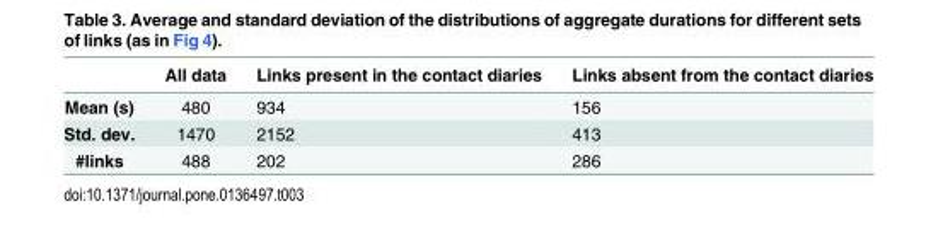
<table><thead><tr><td></td><td>All data</td><td>Links present in the contact diaries</td><td>Links absent from the contact diaries</td></tr></thead><tbody><tr><td>Mean (s)</td><td>480</td><td>934</td><td>156</td></tr><tr><td>Std. dev.</td><td>1470</td><td>2152</td><td>413</td></tr><tr><td>#links</td><td>488</td><td>202</td><td>286</td></tr></tbody></table>